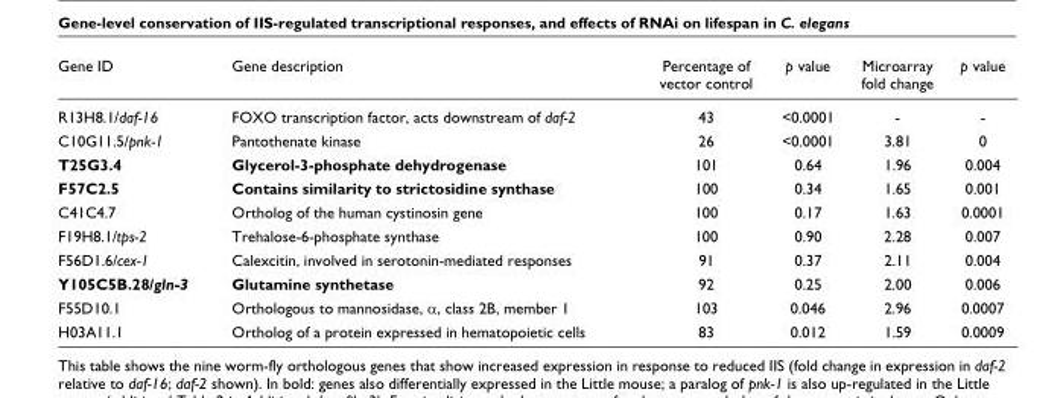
<table><thead><tr><td>Gene ID</td><td>Gene description</td><td>Percentage of vector control</td><td>p value</td><td>Microarray fold change</td><td>p value</td></tr></thead><tbody><tr><td>R13H8.1/daf-16</td><td>FOXO transcription factor, acts downstream of daf-2</td><td>43</td><td>&lt;0.0001</td><td>-</td><td>-</td></tr><tr><td>C10G11.5/pnk-1</td><td>Pantothenate kinase</td><td>26</td><td>&lt;0.0001</td><td>3.81</td><td>0</td></tr><tr><td>T25G3.4</td><td>Glycerol-3-phosphate dehydrogenase</td><td>101</td><td>0.64</td><td>1.96</td><td>0.004</td></tr><tr><td>F57C2.5</td><td>Contains similarity to strictosidine synthase</td><td>100</td><td>0.34</td><td>1.65</td><td>0.001</td></tr><tr><td>C41C4.7</td><td>Ortholog of the human cystinosin gene</td><td>100</td><td>0.17</td><td>1.63</td><td>0.0001</td></tr><tr><td>F19H8.1/tps-2</td><td>Trehalose-6-phosphate synthase</td><td>100</td><td>0.90</td><td>2.28</td><td>0.007</td></tr><tr><td>F56D1.6/cex-1</td><td>Calexcitin, involved in serotonin-mediated responses</td><td>91</td><td>0.37</td><td>2.11</td><td>0.004</td></tr><tr><td>Y105C5B.28/gln-3</td><td>Glutamine synthetase</td><td>92</td><td>0.25</td><td>2.00</td><td>0.006</td></tr><tr><td>F55D10.1</td><td>Orthologous to mannosidase, α, class 2B, member 1</td><td>103</td><td>0.046</td><td>2.96</td><td>0.0007</td></tr><tr><td>H03A11.1</td><td>Ortholog of a protein expressed in hematopoietic cells</td><td>83</td><td>0.012</td><td>1.59</td><td>0.0009</td></tr></tbody></table>